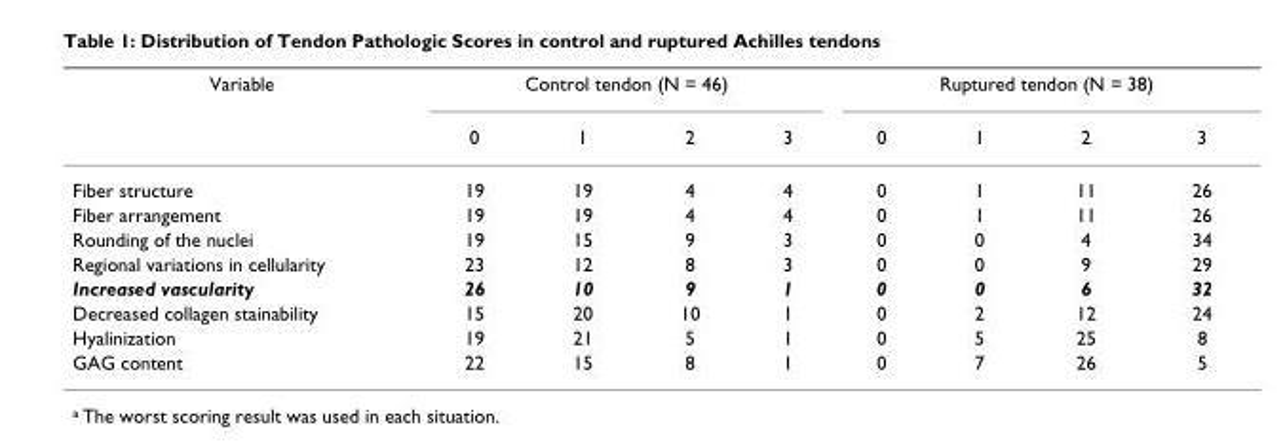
<table><thead><tr><td rowspan="2">Variable</td><td colspan="4">Control tendon (N = 46)</td><td colspan="4">Ruptured tendon (N = 38)</td></tr><tr><td>0</td><td>1</td><td>2</td><td>3</td><td>0</td><td>1</td><td>2</td><td>3</td></tr></thead><tbody><tr><td>Fiber structure</td><td>19</td><td>19</td><td>4</td><td>4</td><td>0</td><td>1</td><td>11</td><td>26</td></tr><tr><td>Fiber arrangement</td><td>19</td><td>19</td><td>4</td><td>4</td><td>0</td><td>1</td><td>11</td><td>26</td></tr><tr><td>Rounding of the nuclei</td><td>19</td><td>15</td><td>9</td><td>3</td><td>0</td><td>0</td><td>4</td><td>34</td></tr><tr><td>Regional variations in cellularity</td><td>23</td><td>12</td><td>8</td><td>3</td><td>0</td><td>0</td><td>9</td><td>29</td></tr><tr><td>Increased vascularity</td><td>26</td><td>10</td><td>9</td><td>1</td><td>0</td><td>0</td><td>6</td><td>32</td></tr><tr><td>Decreased collagen stainability</td><td>15</td><td>20</td><td>10</td><td>1</td><td>0</td><td>2</td><td>12</td><td>24</td></tr><tr><td>Hyalinization</td><td>19</td><td>21</td><td>5</td><td>1</td><td>0</td><td>5</td><td>25</td><td>8</td></tr><tr><td>GAG content</td><td>22</td><td>15</td><td>8</td><td>1</td><td>0</td><td>7</td><td>26</td><td>5</td></tr></tbody></table>